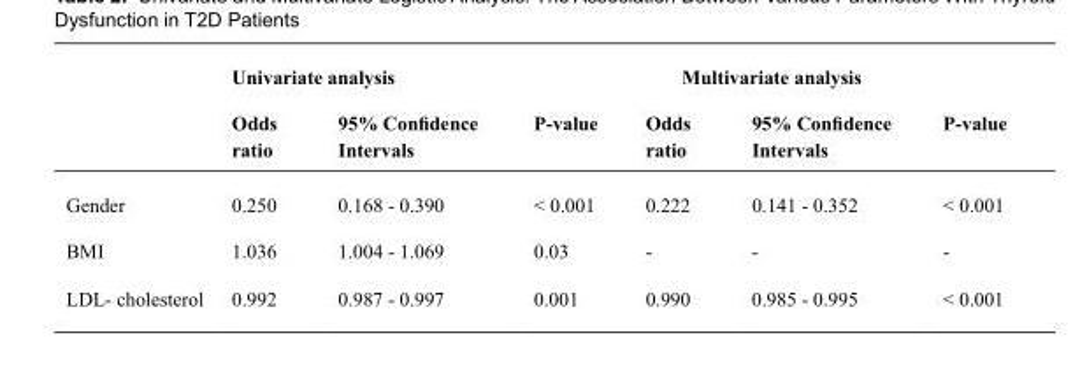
<table><thead><tr><td rowspan="2"></td><td colspan="3">Univariate analysis</td><td colspan="3">Multivariate analysis</td></tr><tr><td>Odds ratio</td><td>95% Confidence Intervals</td><td>P-value</td><td>Odds ratio</td><td>95% Confidence Intervals</td><td>P-value</td></tr></thead><tbody><tr><td>Gender</td><td>0.250</td><td>0.168 - 0.390</td><td>&lt; 0.001</td><td>0.222</td><td>0.141 - 0.352</td><td>&lt; 0.001</td></tr><tr><td>BMI</td><td>1.036</td><td>1.004 - 1.069</td><td>0.03</td><td>-</td><td>-</td><td>-</td></tr><tr><td>LDL- cholesterol</td><td>0.992</td><td>0.987 - 0.997</td><td>0.001</td><td>0.990</td><td>0.985 - 0.995</td><td>&lt; 0.001</td></tr></tbody></table>